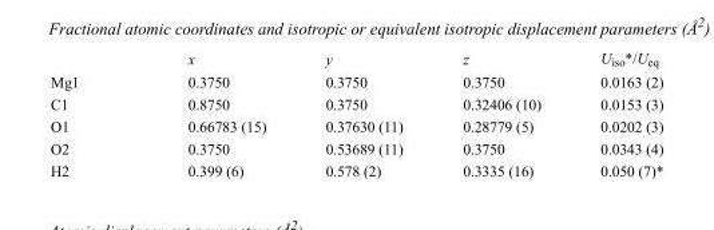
<table><thead><tr><td></td><td>x</td><td>y</td><td>z</td><td>U<sub>iso</sub>*/U<sub>eq</sub></td></tr></thead><tbody><tr><td>Mg1</td><td>0.3750</td><td>0.3750</td><td>0.3750</td><td>0.0163 (2)</td></tr><tr><td>C1</td><td>0.8750</td><td>0.3750</td><td>0.32406 (10)</td><td>0.0153 (3)</td></tr><tr><td>O1</td><td>0.66783 (15)</td><td>0.37630 (11)</td><td>0.28779 (5)</td><td>0.0202 (3)</td></tr><tr><td>O2</td><td>0.3750</td><td>0.53689 (11)</td><td>0.3750</td><td>0.0343 (4)</td></tr><tr><td>H2</td><td>0.399 (6)</td><td>0.578 (2)</td><td>0.3335 (16)</td><td>0.050 (7)*</td></tr></tbody></table>